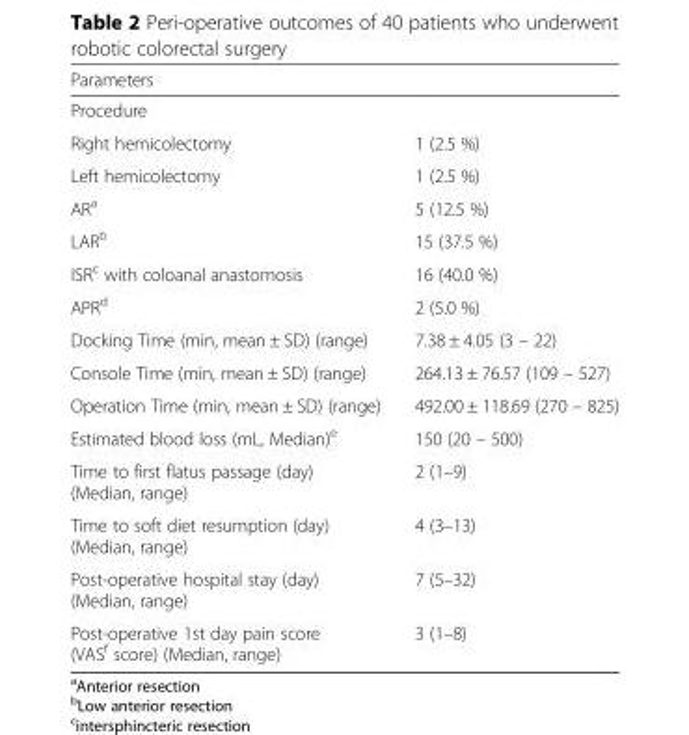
<table><thead><tr><td>Parameters</td><td></td></tr></thead><tbody><tr><td colspan="2">Procedure</td></tr><tr><td>Right hemicolectomy</td><td>1 (2.5 %)</td></tr><tr><td>Left hemicolectomy</td><td>1 (2.5 %)</td></tr><tr><td>AR<sup>a</sup></td><td>5 (12.5 %)</td></tr><tr><td>LAR<sup>b</sup></td><td>15 (37.5 %)</td></tr><tr><td>ISR<sup>c</sup> with coloanal anastomosis</td><td>16 (40.0 %)</td></tr><tr><td>APR<sup>d</sup></td><td>2 (5.0 %)</td></tr><tr><td>Docking Time (min, mean ± SD) (range)</td><td>7.38 ± 4.05 (3 – 22)</td></tr><tr><td>Console Time (min, mean ± SD) (range)</td><td>264.13 ± 76.57 (109 – 527)</td></tr><tr><td>Operation Time (min, mean ± SD) (range)</td><td>492.00 ± 118.69 (270 – 825)</td></tr><tr><td>Estimated blood loss (mL, Median)<sup>e</sup></td><td>150 (20 – 500)</td></tr><tr><td>Time to first flatus passage (day) (Median, range)</td><td>2 (1–9)</td></tr><tr><td>Time to soft diet resumption (day) (Median, range)</td><td>4 (3–13)</td></tr><tr><td>Post-operative hospital stay (day) (Median, range)</td><td>7 (5–32)</td></tr><tr><td>Post-operative 1st day pain score (VAS<sup>f</sup> score) (Median, range)</td><td>3 (1–8)</td></tr></tbody></table>